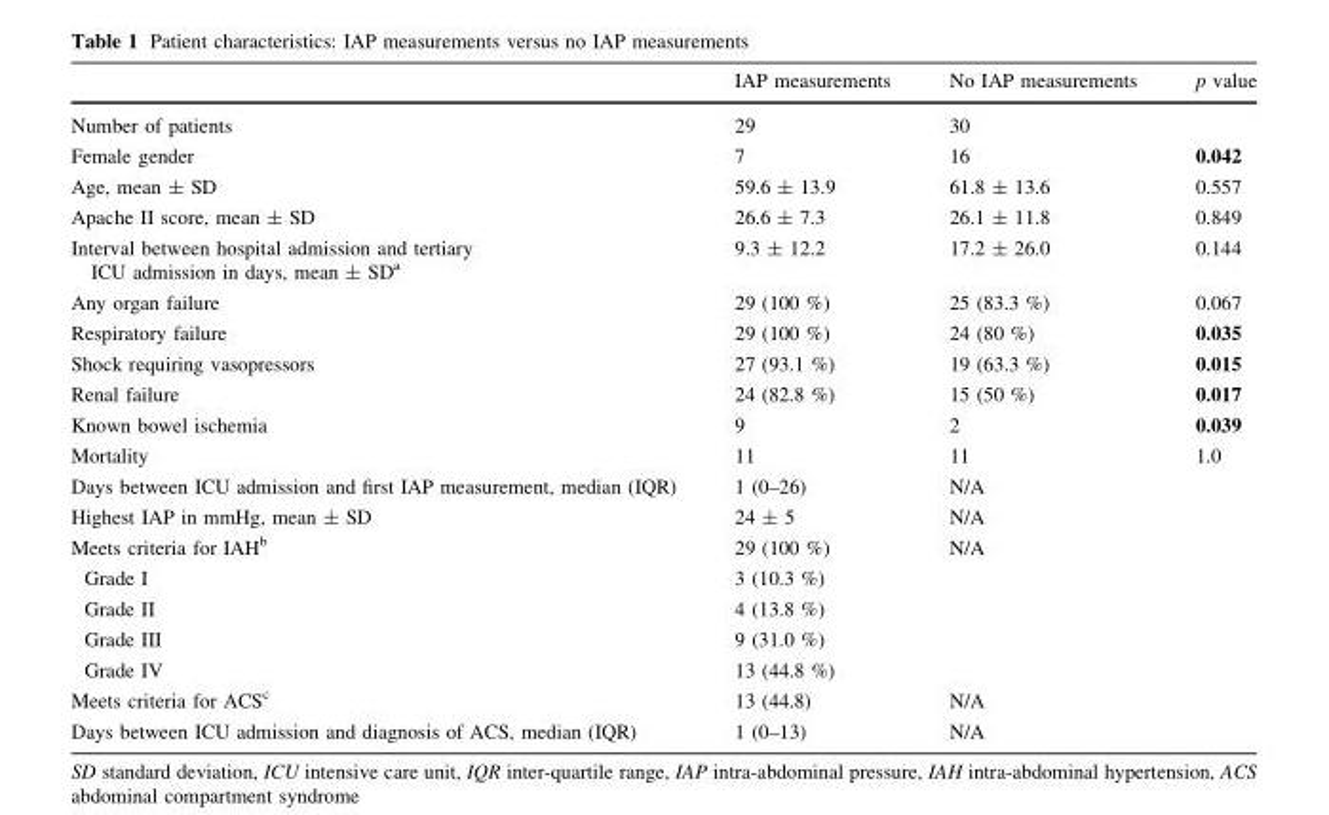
<table><thead><tr><td></td><td>IAP measurements</td><td>No IAP measurements</td><td>p value</td></tr></thead><tbody><tr><td>Number of patients</td><td>29</td><td>30</td><td></td></tr><tr><td>Female gender</td><td>7</td><td>16</td><td>0.042</td></tr><tr><td>Age, mean ± SD</td><td>59.6 ± 13.9</td><td>61.8 ± 13.6</td><td>0.557</td></tr><tr><td>Apache II score, mean ± SD</td><td>26.6 ± 7.3</td><td>26.1 ± 11.8</td><td>0.849</td></tr><tr><td>Interval between hospital admission and tertiary ICU admission in days, mean ± SD<sup>a</sup></td><td>9.3 ± 12.2</td><td>17.2 ± 26.0</td><td>0.144</td></tr><tr><td>Any organ failure</td><td>29 (100 %)</td><td>25 (83.3 %)</td><td>0.067</td></tr><tr><td>Respiratory failure</td><td>29 (100 %)</td><td>24 (80 %)</td><td>0.035</td></tr><tr><td>Shock requiring vasopressors</td><td>27 (93.1 %)</td><td>19 (63.3 %)</td><td>0.015</td></tr><tr><td>Renal failure</td><td>24 (82.8 %)</td><td>15 (50 %)</td><td>0.017</td></tr><tr><td>Known bowel ischemia</td><td>9</td><td>2</td><td>0.039</td></tr><tr><td>Mortality</td><td>11</td><td>11</td><td>1.0</td></tr><tr><td>Days between ICU admission and first IAP measurement, median (IQR)</td><td>1 (0–26)</td><td>N/A</td><td></td></tr><tr><td>Highest IAP in mmHg, mean ± SD</td><td>24 ± 5</td><td>N/A</td><td></td></tr><tr><td>Meets criteria for IAH<sup>b</sup></td><td>29 (100 %)</td><td>N/A</td><td></td></tr><tr><td>Grade I</td><td>3 (10.3 %)</td><td></td><td></td></tr><tr><td>Grade II</td><td>4 (13.8 %)</td><td></td><td></td></tr><tr><td>Grade III</td><td>9 (31.0 %)</td><td></td><td rowspan="2"></td></tr><tr><td>Grade IV</td><td>13 (44.8 %)</td><td></td></tr><tr><td>Meets criteria for ACS<sup>c</sup></td><td>13 (44.8)</td><td>N/A</td><td></td></tr><tr><td>Days between ICU admission and diagnosis of ACS, median (IQR)</td><td>1 (0–13)</td><td>N/A</td><td></td></tr></tbody></table>